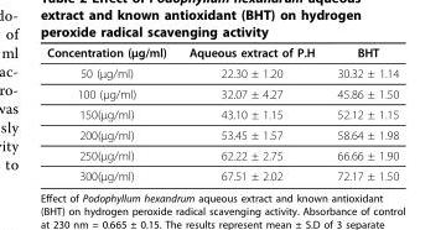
<table><thead><tr><td>Concentration (μg/ml)</td><td>Aqueous extract of P.H</td><td>BHT</td></tr></thead><tbody><tr><td>50 (μg/ml)</td><td>22.30 ± 1.20</td><td>30.32 ± 1.14</td></tr><tr><td>100 (μg/ml)</td><td>32.07 ± 4.27</td><td>45.86 ± 1.50</td></tr><tr><td>150(μg/ml)</td><td>43.10 ± 1.15</td><td>52.12 ± 1.15</td></tr><tr><td>200(μg/ml)</td><td>53.45 ± 1.57</td><td>58.64 ± 1.98</td></tr><tr><td>250(μg/ml)</td><td>62.22 ± 2.75</td><td>66.66 ± 1.90</td></tr><tr><td>300(μg/ml)</td><td>67.51 ± 2.02</td><td>72.17 ± 1.50</td></tr></tbody></table>